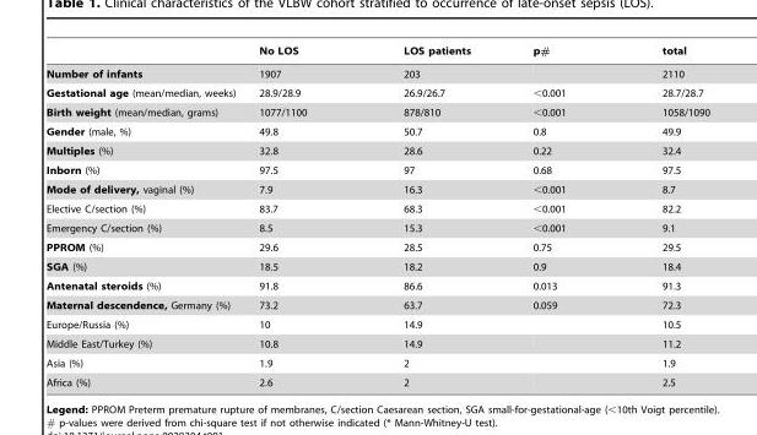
<table><thead><tr><td></td><td>No LOS</td><td>LOS patients</td><td>p#</td><td>total</td></tr></thead><tbody><tr><td>Number of infants</td><td>1907</td><td>203</td><td></td><td>2110</td></tr><tr><td>Gestational age (mean/median, weeks)</td><td>28.9/28.9</td><td>26.9/26.7</td><td>&lt;0.001</td><td>28.7/28.7</td></tr><tr><td>Birth weight (mean/median, grams)</td><td>1077/1100</td><td>878/810</td><td>&lt;0.001</td><td>1058/1090</td></tr><tr><td>Gender (male, %)</td><td>49.8</td><td>50.7</td><td>0.8</td><td>49.9</td></tr><tr><td>Multiples (%)</td><td>32.8</td><td>28.6</td><td>0.22</td><td>32.4</td></tr><tr><td>Inborn (%)</td><td>97.5</td><td>97</td><td>0.68</td><td>97.5</td></tr><tr><td>Mode of delivery, vaginal (%)</td><td>7.9</td><td>16.3</td><td>&lt;0.001</td><td>8.7</td></tr><tr><td>Elective C/section (%)</td><td>83.7</td><td>68.3</td><td>&lt;0.001</td><td>82.2</td></tr><tr><td>Emergency C/section (%)</td><td>8.5</td><td>15.3</td><td>&lt;0.001</td><td>9.1</td></tr><tr><td>PPROM (%)</td><td>29.6</td><td>28.5</td><td>0.75</td><td>29.5</td></tr><tr><td>SGA (%)</td><td>18.5</td><td>18.2</td><td>0.9</td><td>18.4</td></tr><tr><td>Antenatal steroids (%)</td><td>91.8</td><td>86.6</td><td>0.013</td><td>91.3</td></tr><tr><td>Maternal descendence, Germany (%)</td><td>73.2</td><td>63.7</td><td>0.059</td><td>72.3</td></tr><tr><td>Europe/Russia (%)</td><td>10</td><td>14.9</td><td></td><td>10.5</td></tr><tr><td>Middle East/Turkey (%)</td><td>10.8</td><td>14.9</td><td></td><td>11.2</td></tr><tr><td>Asia (%)</td><td>1.9</td><td>2</td><td></td><td>1.9</td></tr><tr><td>Africa (%)</td><td>2.6</td><td>2</td><td></td><td>2.5</td></tr></tbody></table>